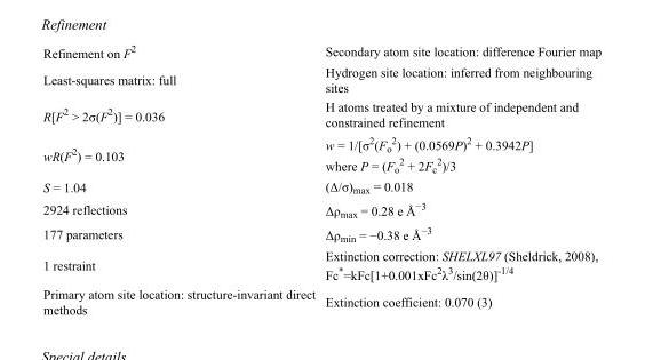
<table><tbody><tr><td>Refinement on F<sup>2</sup></td><td>Secondary atom site location: difference Fourier map</td></tr><tr><td>Least-squares matrix: full</td><td>Hydrogen site location: inferred from neighbouring sites</td></tr><tr><td>R[F<sup>2</sup> &gt; 2σ(F<sup>2</sup>)] = 0.036</td><td>H atoms treated by a mixture of independent and constrained refinement</td></tr><tr><td>wR(F<sup>2</sup>) = 0.103</td><td>w = 1/[σ<sup>2</sup>(F<sub>o</sub> <sup>2</sup>) + (0.0569P)<sup>2</sup> + 0.3942P] where P = (F<sub>o</sub> <sup>2</sup> + 2F<sub>c</sub> <sup>2</sup>)/3</td></tr><tr><td>S = 1.04</td><td>(Δ/σ)<sub>max</sub> = 0.018</td></tr><tr><td>2924 reflections</td><td>Δρ<sub>max</sub> = 0.28 e Å<sup>−3</sup></td></tr><tr><td>177 parameters</td><td>Δρ<sub>min</sub> = −0.38 e Å<sup>−3</sup></td></tr><tr><td>1 restraint</td><td>Extinction correction: SHELXL97 (Sheldrick, 2008), Fc*=kFc[1+0.001xFc<sup>2</sup>λ<sup>3</sup>/sin(2θ)]<sup>-1/4</sup></td></tr><tr><td>Primary atom site location: structure-invariant direct methods</td><td>Extinction coefficient: 0.070 (3)</td></tr></tbody></table>